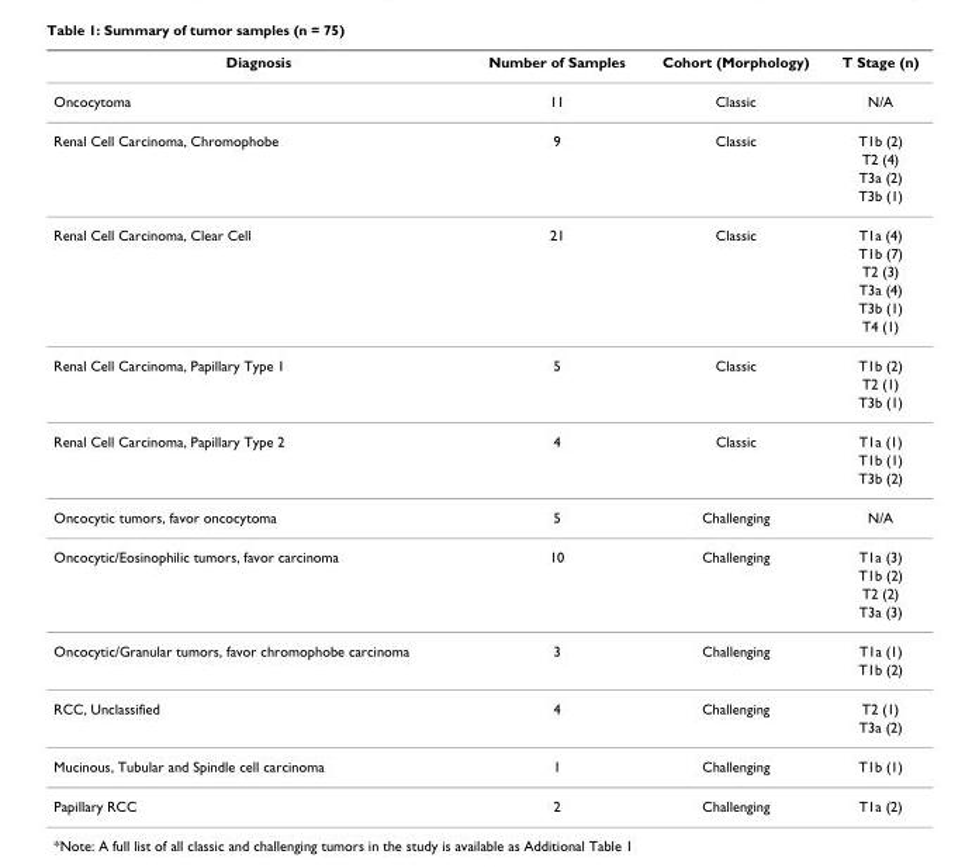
<table><thead><tr><td>Diagnosis</td><td>Number of Samples</td><td>Cohort (Morphology)</td><td>T Stage (n)</td></tr></thead><tbody><tr><td>Oncocytoma</td><td>11</td><td>Classic</td><td>N/A</td></tr><tr><td rowspan="4">Renal Cell Carcinoma, Chromophobe</td><td>9</td><td>Classic</td><td>T1b (2)</td></tr><tr><td></td><td></td><td>T2 (4)</td></tr><tr><td></td><td></td><td>T3a (2)</td></tr><tr><td></td><td></td><td>T3b (1)</td></tr><tr><td rowspan="6">Renal Cell Carcinoma, Clear Cell</td><td>21</td><td>Classic</td><td>T1a (4)</td></tr><tr><td></td><td></td><td>T1b (7)</td></tr><tr><td></td><td></td><td>T2 (3)</td></tr><tr><td></td><td></td><td>T3a (4)</td></tr><tr><td></td><td></td><td>T3b (1)</td></tr><tr><td></td><td></td><td>T4 (1)</td></tr><tr><td rowspan="3">Renal Cell Carcinoma, Papillary Type 1</td><td>5</td><td>Classic</td><td>T1b (2)</td></tr><tr><td></td><td></td><td>T2 (1)</td></tr><tr><td></td><td></td><td>T3b (1)</td></tr><tr><td rowspan="3">Renal Cell Carcinoma, Papillary Type 2</td><td>4</td><td>Classic</td><td>T1a (1)</td></tr><tr><td></td><td></td><td>T1b (1)</td></tr><tr><td></td><td></td><td>T3b (2)</td></tr><tr><td>Oncocytic tumors, favor oncocytoma</td><td>5</td><td>Challenging</td><td>N/A</td></tr><tr><td rowspan="4">Oncocytic/Eosinophilic tumors, favor carcinoma</td><td>10</td><td>Challenging</td><td>T1a (3)</td></tr><tr><td></td><td></td><td>T1b (2)</td></tr><tr><td></td><td></td><td>T2 (2)</td></tr><tr><td></td><td></td><td>T3a (3)</td></tr><tr><td rowspan="2">Oncocytic/Granular tumors, favor chromophobe carcinoma</td><td>3</td><td>Challenging</td><td>T1a (1)</td></tr><tr><td></td><td></td><td>T1b (2)</td></tr><tr><td rowspan="2">RCC, Unclassified</td><td>4</td><td>Challenging</td><td>T2 (1)</td></tr><tr><td></td><td></td><td>T3a (2)</td></tr><tr><td>Mucinous, Tubular and Spindle cell carcinoma</td><td>1</td><td>Challenging</td><td>T1b (1)</td></tr><tr><td>Papillary RCC</td><td>2</td><td>Challenging</td><td>T1a (2)</td></tr></tbody></table>